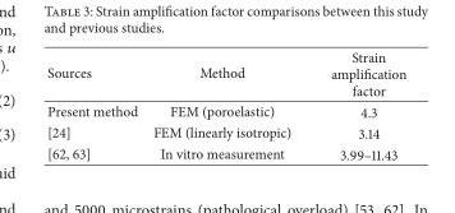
<table><thead><tr><td>Sources</td><td>Method</td><td>Strain amplification factor</td></tr></thead><tbody><tr><td>Present method</td><td>FEM (poroelastic)</td><td>4.3</td></tr><tr><td>[24]</td><td>FEM (linearly isotropic)</td><td>3.14</td></tr><tr><td>[62, 63]</td><td>In vitro measurement</td><td>3.99–11.43</td></tr></tbody></table>